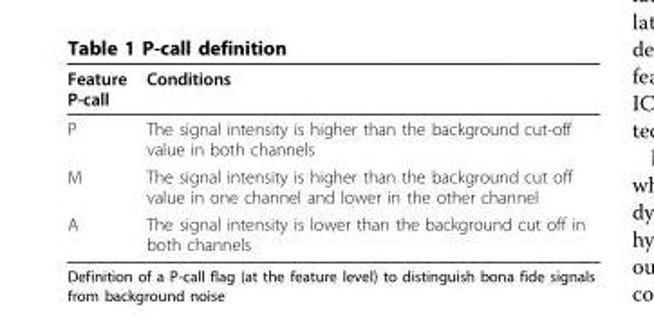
<table><thead><tr><td>Feature P-call</td><td>Conditions</td></tr></thead><tbody><tr><td>P</td><td>The signal intensity is higher than the background cut-off value in both channels</td></tr><tr><td>M</td><td>The signal intensity is higher than the background cut off value in one channel and lower in the other channel</td></tr><tr><td>A</td><td>The signal intensity is lower than the background cut off in both channels</td></tr></tbody></table>